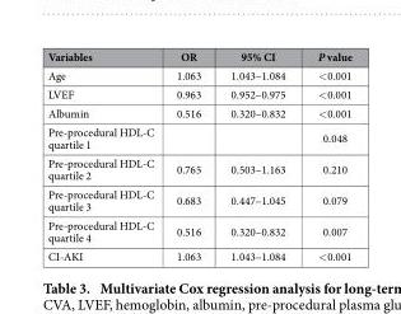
<table><thead><tr><td>Variables</td><td>OR</td><td>95% CI</td><td>P value</td></tr></thead><tbody><tr><td>Age</td><td>1.063</td><td>1.043–1.084</td><td>&lt; 0.001</td></tr><tr><td>LVEF</td><td>0.963</td><td>0.952–0.975</td><td>&lt; 0.001</td></tr><tr><td>Albumin</td><td>0.516</td><td>0.320–0.832</td><td>&lt; 0.001</td></tr><tr><td>Pre-procedural HDL-C quartile 1</td><td></td><td></td><td>0.048</td></tr><tr><td>Pre-procedural HDL-C quartile 2</td><td>0.765</td><td>0.503–1.163</td><td>0.210</td></tr><tr><td>Pre-procedural HDL-C quartile 3</td><td>0.683</td><td>0.447–1.045</td><td>0.079</td></tr><tr><td>Pre-procedural HDL-C quartile 4</td><td>0.516</td><td>0.320–0.832</td><td>0.007</td></tr><tr><td>CI-AKI</td><td>1.063</td><td>1.043–1.084</td><td>&lt; 0.001</td></tr></tbody></table>